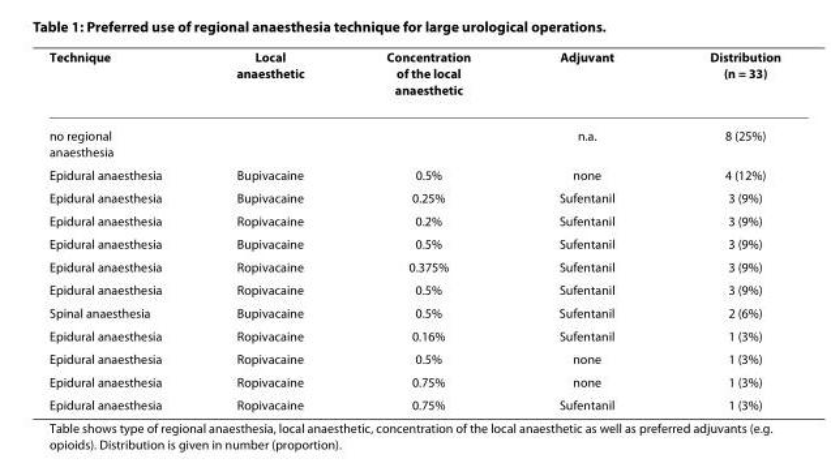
<table><thead><tr><td>Technique</td><td>Local anaesthetic</td><td>Concentration of the local anaesthetic</td><td>Adjuvant</td><td>Distribution (n = 33)</td></tr></thead><tbody><tr><td>no regional anaesthesia</td><td></td><td></td><td>n.a.</td><td>8 (25%)</td></tr><tr><td>Epidural anaesthesia</td><td>Bupivacaine</td><td>0.5%</td><td>none</td><td>4 (12%)</td></tr><tr><td>Epidural anaesthesia</td><td>Bupivacaine</td><td>0.25%</td><td>Sufentanil</td><td>3 (9%)</td></tr><tr><td>Epidural anaesthesia</td><td>Ropivacaine</td><td>0.2%</td><td>Sufentanil</td><td>3 (9%)</td></tr><tr><td>Epidural anaesthesia</td><td>Bupivacaine</td><td>0.5%</td><td>Sufentanil</td><td>3 (9%)</td></tr><tr><td>Epidural anaesthesia</td><td>Ropivacaine</td><td>0.375%</td><td>Sufentanil</td><td>3 (9%)</td></tr><tr><td>Epidural anaesthesia</td><td>Ropivacaine</td><td>0.5%</td><td>Sufentanil</td><td>3 (9%)</td></tr><tr><td>Spinal anaesthesia</td><td>Bupivacaine</td><td>0.5%</td><td>Sufentanil</td><td>2 (6%)</td></tr><tr><td>Epidural anaesthesia</td><td>Ropivacaine</td><td>0.16%</td><td>Sufentanil</td><td>1 (3%)</td></tr><tr><td>Epidural anaesthesia</td><td>Ropivacaine</td><td>0.5%</td><td>none</td><td>1 (3%)</td></tr><tr><td>Epidural anaesthesia</td><td>Ropivacaine</td><td>0.75%</td><td>none</td><td>1 (3%)</td></tr><tr><td>Epidural anaesthesia</td><td>Ropivacaine</td><td>0.75%</td><td>Sufentanil</td><td>1 (3%)</td></tr></tbody></table>